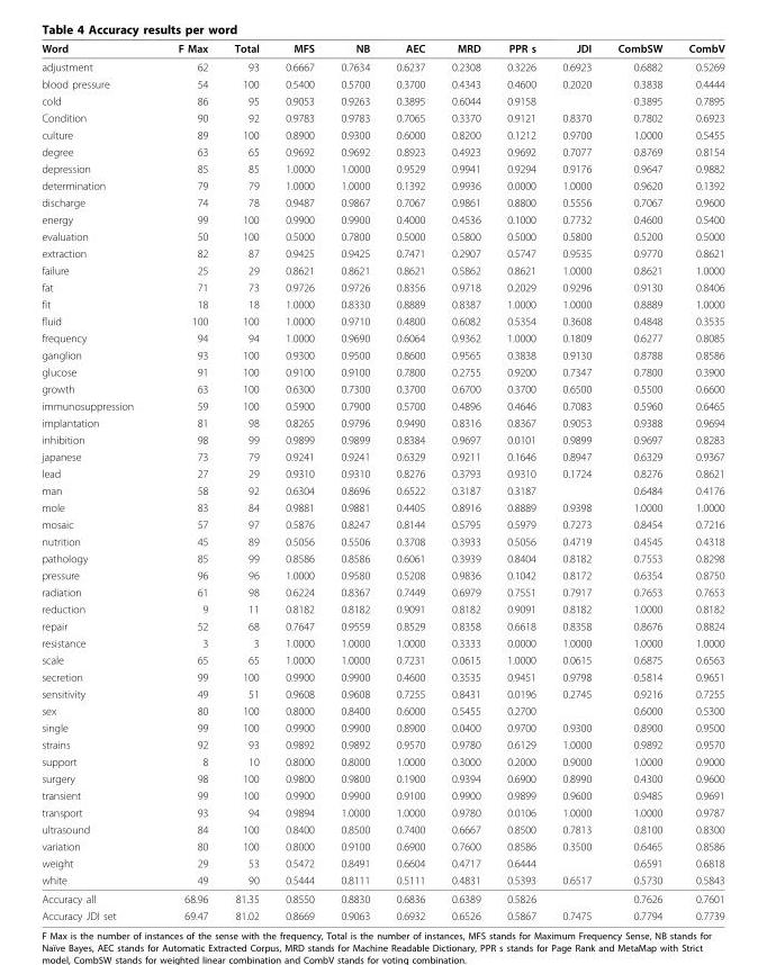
<table><thead><tr><td>Word</td><td>F Max</td><td>Total</td><td>MFS</td><td>NB</td><td>AEC</td><td>MRD</td><td>PPR s</td><td>JDI</td><td>CombSW</td><td>CombV</td></tr></thead><tbody><tr><td>adjustment</td><td>62</td><td>93</td><td>0.6667</td><td>0.7634</td><td>0.6237</td><td>0.2308</td><td>0.3226</td><td>0.6923</td><td>0.6882</td><td>0.5269</td></tr><tr><td>blood pressure</td><td>54</td><td>100</td><td>0.5400</td><td>0.5700</td><td>0.3700</td><td>0.4343</td><td>0.4600</td><td>0.2020</td><td>0.3838</td><td>0.4444</td></tr><tr><td>cold</td><td>86</td><td>95</td><td>0.9053</td><td>0.9263</td><td>0.3895</td><td>0.6044</td><td>0.9158</td><td></td><td>0.3895</td><td>0.7895</td></tr><tr><td>Condition</td><td>90</td><td>92</td><td>0.9783</td><td>0.9783</td><td>0.7065</td><td>0.3370</td><td>0.9121</td><td>0.8370</td><td>0.7802</td><td>0.6923</td></tr><tr><td>culture</td><td>89</td><td>100</td><td>0.8900</td><td>0.9300</td><td>0.6000</td><td>0.8200</td><td>0.1212</td><td>0.9700</td><td>1.0000</td><td>0.5455</td></tr><tr><td>degree</td><td>63</td><td>65</td><td>0.9692</td><td>0.9692</td><td>0.8923</td><td>0.4923</td><td>0.9692</td><td>0.7077</td><td>0.8769</td><td>0.8154</td></tr><tr><td>depression</td><td>85</td><td>85</td><td>1.0000</td><td>1.0000</td><td>0.9529</td><td>0.9941</td><td>0.9294</td><td>0.9176</td><td>0.9647</td><td>0.9882</td></tr><tr><td>determination</td><td>79</td><td>79</td><td>1.0000</td><td>1.0000</td><td>0.1392</td><td>0.9936</td><td>0.0000</td><td>1.0000</td><td>0.9620</td><td>0.1392</td></tr><tr><td>discharge</td><td>74</td><td>78</td><td>0.9487</td><td>0.9867</td><td>0.7067</td><td>0.9861</td><td>0.8800</td><td>0.5556</td><td>0.7067</td><td>0.9600</td></tr><tr><td>energy</td><td>99</td><td>100</td><td>0.9900</td><td>0.9900</td><td>0.4000</td><td>0.4536</td><td>0.1000</td><td>0.7732</td><td>0.4600</td><td>0.5400</td></tr><tr><td>evaluation</td><td>50</td><td>100</td><td>0.5000</td><td>0.7800</td><td>0.5000</td><td>0.5800</td><td>0.5000</td><td>0.5800</td><td>0.5200</td><td>0.5000</td></tr><tr><td>extraction</td><td>82</td><td>87</td><td>0.9425</td><td>0.9425</td><td>0.7471</td><td>0.2907</td><td>0.5747</td><td>0.9535</td><td>0.9770</td><td>0.8621</td></tr><tr><td>failure</td><td>25</td><td>29</td><td>0.8621</td><td>0.8621</td><td>0.8621</td><td>0.5862</td><td>0.8621</td><td>1.0000</td><td>0.8621</td><td>1.0000</td></tr><tr><td>fat</td><td>71</td><td>73</td><td>0.9726</td><td>0.9726</td><td>0.8356</td><td>0.9718</td><td>0.2029</td><td>0.9296</td><td>0.9130</td><td>0.8406</td></tr><tr><td>fit</td><td>18</td><td>18</td><td>1.0000</td><td>0.8330</td><td>0.8889</td><td>0.8387</td><td>1.0000</td><td>1.0000</td><td>0.8889</td><td>1.0000</td></tr><tr><td>fluid</td><td>100</td><td>100</td><td>1.0000</td><td>0.9710</td><td>0.4800</td><td>0.6082</td><td>0.5354</td><td>0.3608</td><td>0.4848</td><td>0.3535</td></tr><tr><td>frequency</td><td>94</td><td>94</td><td>1.0000</td><td>0.9690</td><td>0.6064</td><td>0.9362</td><td>1.0000</td><td>0.1809</td><td>0.6277</td><td>0.8085</td></tr><tr><td>ganglion</td><td>93</td><td>100</td><td>0.9300</td><td>0.9500</td><td>0.8600</td><td>0.9565</td><td>0.3838</td><td>0.9130</td><td>0.8788</td><td>0.8586</td></tr><tr><td>glucose</td><td>91</td><td>100</td><td>0.9100</td><td>0.9100</td><td>0.7800</td><td>0.2755</td><td>0.9200</td><td>0.7347</td><td>0.7800</td><td>0.3900</td></tr><tr><td>growth</td><td>63</td><td>100</td><td>0.6300</td><td>0.7300</td><td>0.3700</td><td>0.6700</td><td>0.3700</td><td>0.6500</td><td>0.5500</td><td>0.6600</td></tr><tr><td>immunosuppression</td><td>59</td><td>100</td><td>0.5900</td><td>0.7900</td><td>0.5700</td><td>0.4896</td><td>0.4646</td><td>0.7083</td><td>0.5960</td><td>0.6465</td></tr><tr><td>implantation</td><td>81</td><td>98</td><td>0.8265</td><td>0.9796</td><td>0.9490</td><td>0.8316</td><td>0.8367</td><td>0.9053</td><td>0.9388</td><td>0.9694</td></tr><tr><td>inhibition</td><td>98</td><td>99</td><td>0.9899</td><td>0.9899</td><td>0.8384</td><td>0.9697</td><td>0.0101</td><td>0.9899</td><td>0.9697</td><td>0.8283</td></tr><tr><td>japanese</td><td>73</td><td>79</td><td>0.9241</td><td>0.9241</td><td>0.6329</td><td>0.9211</td><td>0.1646</td><td>0.8947</td><td>0.6329</td><td>0.9367</td></tr><tr><td>lead</td><td>27</td><td>29</td><td>0.9310</td><td>0.9310</td><td>0.8276</td><td>0.3793</td><td>0.9310</td><td>0.1724</td><td>0.8276</td><td>0.8621</td></tr><tr><td>man</td><td>58</td><td>92</td><td>0.6304</td><td>0.8696</td><td>0.6522</td><td>0.3187</td><td>0.3187</td><td></td><td>0.6484</td><td>0.4176</td></tr><tr><td>mole</td><td>83</td><td>84</td><td>0.9881</td><td>0.9881</td><td>0.4405</td><td>0.8916</td><td>0.8889</td><td>0.9398</td><td>1.0000</td><td>1.0000</td></tr><tr><td>mosaic</td><td>57</td><td>97</td><td>0.5876</td><td>0.8247</td><td>0.8144</td><td>0.5795</td><td>0.5979</td><td>0.7273</td><td>0.8454</td><td>0.7216</td></tr><tr><td>nutrition</td><td>45</td><td>89</td><td>0.5056</td><td>0.5506</td><td>0.3708</td><td>0.3933</td><td>0.5056</td><td>0.4719</td><td>0.4545</td><td>0.4318</td></tr><tr><td>pathology</td><td>85</td><td>99</td><td>0.8586</td><td>0.8586</td><td>0.6061</td><td>0.3939</td><td>0.8404</td><td>0.8182</td><td>0.7553</td><td>0.8298</td></tr><tr><td>pressure</td><td>96</td><td>96</td><td>1.0000</td><td>0.9580</td><td>0.5208</td><td>0.9836</td><td>0.1042</td><td>0.8172</td><td>0.6354</td><td>0.8750</td></tr><tr><td>radiation</td><td>61</td><td>98</td><td>0.6224</td><td>0.8367</td><td>0.7449</td><td>0.6979</td><td>0.7551</td><td>0.7917</td><td>0.7653</td><td>0.7653</td></tr><tr><td>reduction</td><td>9</td><td>11</td><td>0.8182</td><td>0.8182</td><td>0.9091</td><td>0.8182</td><td>0.9091</td><td>0.8182</td><td>1.0000</td><td>0.8182</td></tr><tr><td>repair</td><td>52</td><td>68</td><td>0.7647</td><td>0.9559</td><td>0.8529</td><td>0.8358</td><td>0.6618</td><td>0.8358</td><td>0.8676</td><td>0.8824</td></tr><tr><td>resistance</td><td>3</td><td>3</td><td>1.0000</td><td>1.0000</td><td>1.0000</td><td>0.3333</td><td>0.0000</td><td>1.0000</td><td>1.0000</td><td>1.0000</td></tr><tr><td>scale</td><td>65</td><td>65</td><td>1.0000</td><td>1.0000</td><td>0.7231</td><td>0.0615</td><td>1.0000</td><td>0.0615</td><td>0.6875</td><td>0.6563</td></tr><tr><td>secretion</td><td>99</td><td>100</td><td>0.9900</td><td>0.9900</td><td>0.4600</td><td>0.3535</td><td>0.9451</td><td>0.9798</td><td>0.5814</td><td>0.9651</td></tr><tr><td>sensitivity</td><td>49</td><td>51</td><td>0.9608</td><td>0.9608</td><td>0.7255</td><td>0.8431</td><td>0.0196</td><td>0.2745</td><td>0.9216</td><td>0.7255</td></tr><tr><td>sex</td><td>80</td><td>100</td><td>0.8000</td><td>0.8400</td><td>0.6000</td><td>0.5455</td><td>0.2700</td><td></td><td>0.6000</td><td>0.5300</td></tr><tr><td>single</td><td>99</td><td>100</td><td>0.9900</td><td>0.9900</td><td>0.8900</td><td>0.0400</td><td>0.9700</td><td>0.9300</td><td>0.8900</td><td>0.9500</td></tr><tr><td>strains</td><td>92</td><td>93</td><td>0.9892</td><td>0.9892</td><td>0.9570</td><td>0.9780</td><td>0.6129</td><td>1.0000</td><td>0.9892</td><td>0.9570</td></tr><tr><td>support</td><td>8</td><td>10</td><td>0.8000</td><td>0.8000</td><td>1.0000</td><td>0.3000</td><td>0.2000</td><td>0.9000</td><td>1.0000</td><td>0.9000</td></tr><tr><td>surgery</td><td>98</td><td>100</td><td>0.9800</td><td>0.9800</td><td>0.1900</td><td>0.9394</td><td>0.6900</td><td>0.8990</td><td>0.4300</td><td>0.9600</td></tr><tr><td>transient</td><td>99</td><td>100</td><td>0.9900</td><td>0.9900</td><td>0.9100</td><td>0.9900</td><td>0.9899</td><td>0.9600</td><td>0.9485</td><td>0.9691</td></tr><tr><td>transport</td><td>93</td><td>94</td><td>0.9894</td><td>1.0000</td><td>1.0000</td><td>0.9780</td><td>0.0106</td><td>1.0000</td><td>1.0000</td><td>0.9787</td></tr><tr><td>ultrasound</td><td>84</td><td>100</td><td>0.8400</td><td>0.8500</td><td>0.7400</td><td>0.6667</td><td>0.8500</td><td>0.7813</td><td>0.8100</td><td>0.8300</td></tr><tr><td>variation</td><td>80</td><td>100</td><td>0.8000</td><td>0.9100</td><td>0.6900</td><td>0.7600</td><td>0.8586</td><td>0.3500</td><td>0.6465</td><td>0.8586</td></tr><tr><td>weight</td><td>29</td><td>53</td><td>0.5472</td><td>0.8491</td><td>0.6604</td><td>0.4717</td><td>0.6444</td><td></td><td>0.6591</td><td>0.6818</td></tr><tr><td>white</td><td>49</td><td>90</td><td>0.5444</td><td>0.8111</td><td>0.5111</td><td>0.4831</td><td>0.5393</td><td>0.6517</td><td>0.5730</td><td>0.5843</td></tr><tr><td>Accuracy all</td><td>68.96</td><td>81.35</td><td>0.8550</td><td>0.8830</td><td>0.6836</td><td>0.6389</td><td>0.5826</td><td></td><td>0.7626</td><td>0.7601</td></tr><tr><td>Accuracy JDI set</td><td>69.47</td><td>81.02</td><td>0.8669</td><td>0.9063</td><td>0.6932</td><td>0.6526</td><td>0.5867</td><td>0.7475</td><td>0.7794</td><td>0.7739</td></tr></tbody></table>